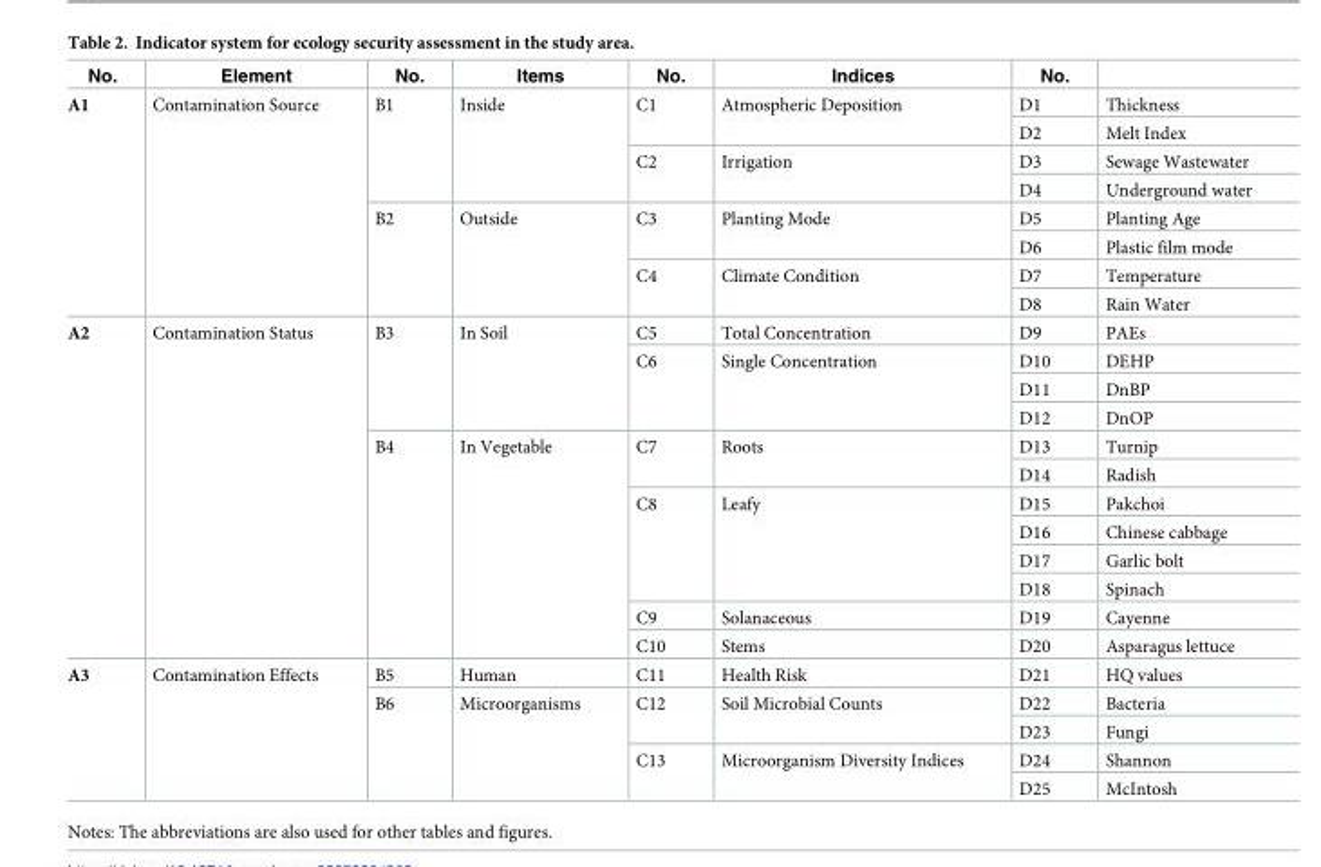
<table><thead><tr><td>No.</td><td>Element</td><td>No.</td><td>Items</td><td>No.</td><td>Indices</td><td>No.</td><td></td></tr></thead><tbody><tr><td rowspan="8">A1</td><td rowspan="8">Contamination Source</td><td rowspan="4">B1</td><td rowspan="4">Inside</td><td rowspan="2">C1</td><td rowspan="2">Atmospheric Deposition</td><td>D1</td><td>Thickness</td></tr><tr><td>D2</td><td>Melt Index</td></tr><tr><td rowspan="2">C2</td><td rowspan="2">Irrigation</td><td>D3</td><td>Sewage Wastewater</td></tr><tr><td>D4</td><td>Underground water</td></tr><tr><td rowspan="4">B2</td><td rowspan="4">Outside</td><td rowspan="2">C3</td><td rowspan="2">Planting Mode</td><td>D5</td><td>Planting Age</td></tr><tr><td>D6</td><td>Plastic film mode</td></tr><tr><td rowspan="2">C4</td><td rowspan="2">Climate Condition</td><td>D7</td><td>Temperature</td></tr><tr><td>D8</td><td>Rain Water</td></tr><tr><td rowspan="12">A2</td><td rowspan="12">Contamination Status</td><td rowspan="4">B3</td><td rowspan="4">In Soil</td><td>C5</td><td>Total Concentration</td><td>D9</td><td>PAEs</td></tr><tr><td rowspan="3">C6</td><td rowspan="3">Single Concentration</td><td>D10</td><td>DEHP</td></tr><tr><td>D11</td><td>DnBP</td></tr><tr><td>D12</td><td>DnOP</td></tr><tr><td rowspan="8">B4</td><td rowspan="8">In Vegetable</td><td rowspan="2">C7</td><td rowspan="2">Roots</td><td>D13</td><td>Turnip</td></tr><tr><td>D14</td><td>Radish</td></tr><tr><td rowspan="4">C8</td><td rowspan="4">Leafy</td><td>D15</td><td>Pakchoi</td></tr><tr><td>D16</td><td>Chinese cabbage</td></tr><tr><td>D17</td><td>Garlic bolt</td></tr><tr><td>D18</td><td>Spinach</td></tr><tr><td>C9</td><td>Solanaceous</td><td>D19</td><td>Cayenne</td></tr><tr><td>C10</td><td>Stems</td><td>D20</td><td>Asparagus lettuce</td></tr><tr><td rowspan="5">A3</td><td rowspan="5">Contamination Effects</td><td>B5</td><td>Human</td><td>C11</td><td>Health Risk</td><td>D21</td><td>HQ values</td></tr><tr><td rowspan="4">B6</td><td rowspan="4">Microorganisms</td><td rowspan="2">C12</td><td rowspan="2">Soil Microbial Counts</td><td>D22</td><td>Bacteria</td></tr><tr><td>D23</td><td>Fungi</td></tr><tr><td rowspan="2">C13</td><td rowspan="2">Microorganism Diversity Indices</td><td>D24</td><td>Shannon</td></tr><tr><td>D25</td><td>McIntosh</td></tr></tbody></table>